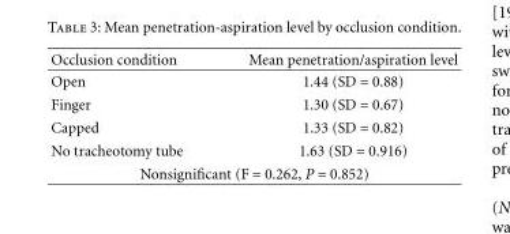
<table><thead><tr><td>Occlusion condition</td><td>Mean penetration/aspiration level</td></tr></thead><tbody><tr><td>Open</td><td>1.44 (SD = 0.88)</td></tr><tr><td>Finger</td><td>1.30 (SD = 0.67)</td></tr><tr><td>Capped</td><td>1.33 (SD = 0.82)</td></tr><tr><td>No tracheotomy tube</td><td>1.63 (SD = 0.916)</td></tr><tr><td colspan="2">Nonsignificant (F = 0.262, P = 0.852)</td></tr></tbody></table>